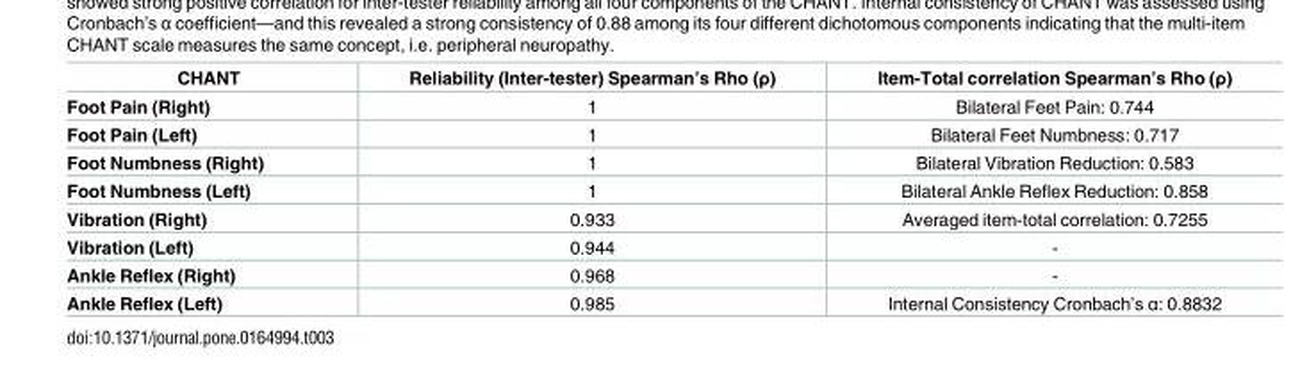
<table><thead><tr><td>CHANT</td><td>Reliability (Inter-tester) Spearman’s Rho (ρ)</td><td>Item-Total correlation Spearman’s Rho (ρ)</td></tr></thead><tbody><tr><td>Foot Pain (Right)</td><td>1</td><td>Bilateral Feet Pain: 0.744</td></tr><tr><td>Foot Pain (Left)</td><td>1</td><td>Bilateral Feet Numbness: 0.717</td></tr><tr><td>Foot Numbness (Right)</td><td>1</td><td>Bilateral Vibration Reduction: 0.583</td></tr><tr><td>Foot Numbness (Left)</td><td>1</td><td>Bilateral Ankle Reflex Reduction: 0.858</td></tr><tr><td>Vibration (Right)</td><td>0.933</td><td>Averaged item-total correlation: 0.7255</td></tr><tr><td>Vibration (Left)</td><td>0.944</td><td>-</td></tr><tr><td>Ankle Reflex (Right)</td><td>0.968</td><td>-</td></tr><tr><td>Ankle Reflex (Left)</td><td>0.985</td><td>Internal Consistency Cronbach’s α: 0.8832</td></tr></tbody></table>